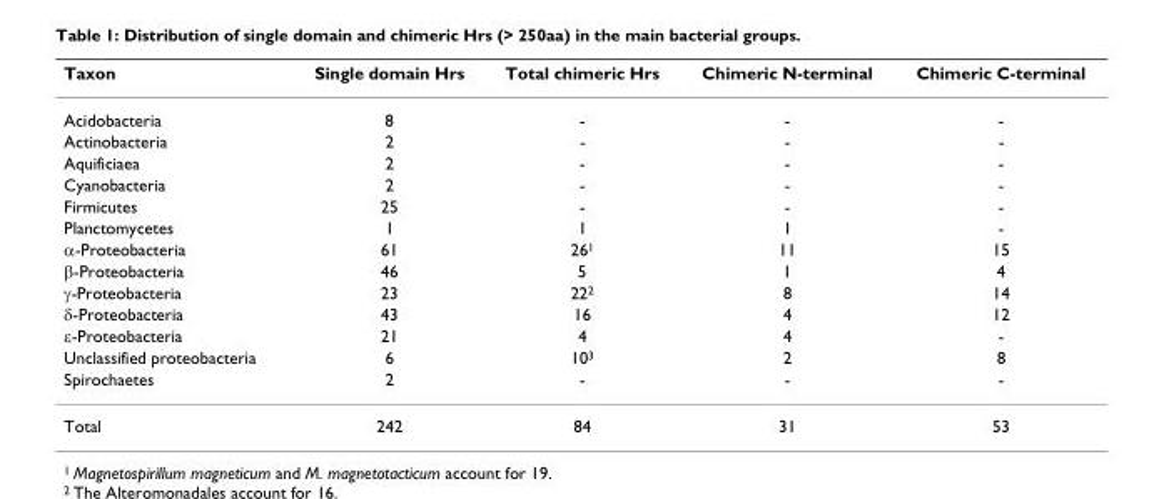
<table><thead><tr><td>Taxon</td><td>Single domain Hrs</td><td>Total chimeric Hrs</td><td>Chimeric N-terminal</td><td>Chimeric C-terminal</td></tr></thead><tbody><tr><td>Acidobacteria</td><td>8</td><td>-</td><td>-</td><td>-</td></tr><tr><td>Actinobacteria</td><td>2</td><td>-</td><td>-</td><td>-</td></tr><tr><td>Aquificiaea</td><td>2</td><td>-</td><td>-</td><td>-</td></tr><tr><td>Cyanobacteria</td><td>2</td><td>-</td><td>-</td><td>-</td></tr><tr><td>Firmicutes</td><td>25</td><td>-</td><td>-</td><td>-</td></tr><tr><td>Planctomycetes</td><td>1</td><td>1</td><td>1</td><td>-</td></tr><tr><td>α-Proteobacteria</td><td>61</td><td>26<sup>1</sup></td><td>11</td><td>15</td></tr><tr><td>β-Proteobacteria</td><td>46</td><td>5</td><td>1</td><td>4</td></tr><tr><td>γ-Proteobacteria</td><td>23</td><td>22<sup>2</sup></td><td>8</td><td>14</td></tr><tr><td>δ-Proteobacteria</td><td>43</td><td>16</td><td>4</td><td>12</td></tr><tr><td>ε-Proteobacteria</td><td>21</td><td>4</td><td>4</td><td>-</td></tr><tr><td>Unclassified proteobacteria</td><td>6</td><td>10<sup>3</sup></td><td>2</td><td>8</td></tr><tr><td>Spirochaetes</td><td>2</td><td>-</td><td>-</td><td>-</td></tr><tr><td>Total</td><td>242</td><td>84</td><td>31</td><td>53</td></tr></tbody></table>